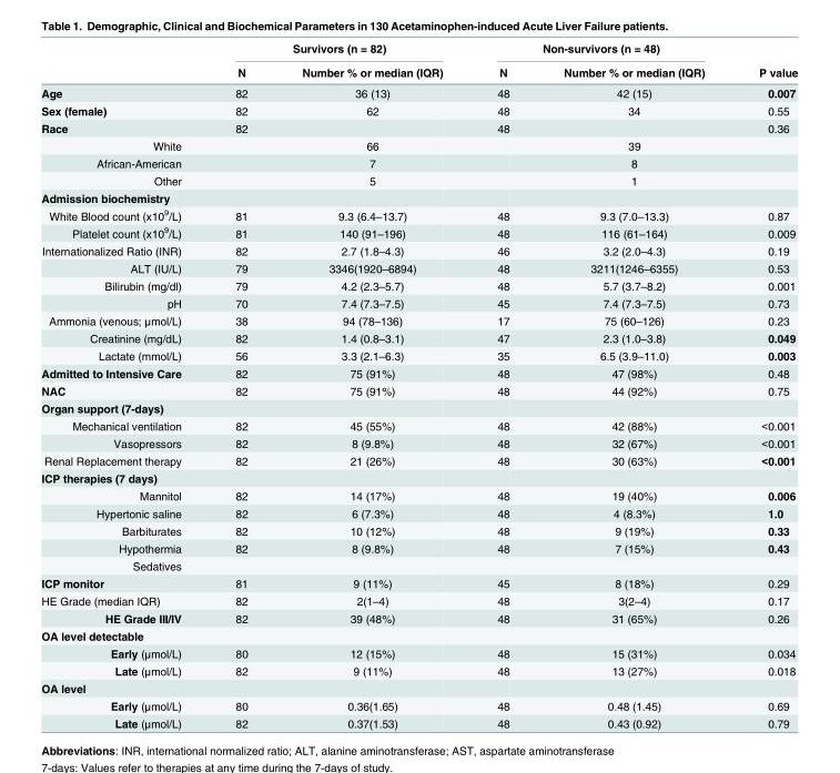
<table><thead><tr><td rowspan="2"></td><td colspan="2">Survivors (n = 82)</td><td colspan="2">Non-survivors (n = 48)</td><td rowspan="2">P value</td></tr><tr><td>N</td><td>Number % or median (IQR)</td><td>N</td><td>Number % or median (IQR)</td></tr></thead><tbody><tr><td>Age</td><td>82</td><td>36 (13)</td><td>48</td><td>42 (15)</td><td>0.007</td></tr><tr><td>Sex (female)</td><td>82</td><td>62</td><td>48</td><td>34</td><td>0.55</td></tr><tr><td>Race</td><td>82</td><td></td><td>48</td><td></td><td>0.36</td></tr><tr><td>White</td><td></td><td>66</td><td></td><td>39</td><td></td></tr><tr><td>African-American</td><td></td><td>7</td><td></td><td>8</td><td></td></tr><tr><td>Other</td><td></td><td>5</td><td></td><td>1</td><td></td></tr><tr><td colspan="6">Admission biochemistry</td></tr><tr><td>White Blood count (x10<sup>9</sup>/L)</td><td>81</td><td>9.3 (6.4–13.7)</td><td>48</td><td>9.3 (7.0–13.3)</td><td>0.87</td></tr><tr><td>Platelet count (x10<sup>9</sup>/L)</td><td>81</td><td>140 (91–196)</td><td>48</td><td>116 (61–164)</td><td>0.009</td></tr><tr><td>Internationalized Ratio (INR)</td><td>82</td><td>2.7 (1.8–4.3)</td><td>46</td><td>3.2 (2.0–4.3)</td><td>0.19</td></tr><tr><td>ALT (IU/L)</td><td>79</td><td>3346(1920–6894)</td><td>48</td><td>3211(1246–6355)</td><td>0.53</td></tr><tr><td>Bilirubin (mg/dl)</td><td>79</td><td>4.2 (2.3–5.7)</td><td>48</td><td>5.7 (3.7–8.2)</td><td>0.001</td></tr><tr><td>pH</td><td>70</td><td>7.4 (7.3–7.5)</td><td>45</td><td>7.4 (7.3–7.5)</td><td>0.73</td></tr><tr><td>Ammonia (venous; μmol/L)</td><td>38</td><td>94 (78–136)</td><td>17</td><td>75 (60–126)</td><td>0.23</td></tr><tr><td>Creatinine (mg/dL)</td><td>82</td><td>1.4 (0.8–3.1)</td><td>47</td><td>2.3 (1.0–3.8)</td><td>0.049</td></tr><tr><td>Lactate (mmol/L)</td><td>56</td><td>3.3 (2.1–6.3)</td><td>35</td><td>6.5 (3.9–11.0)</td><td>0.003</td></tr><tr><td>Admitted to Intensive Care</td><td>82</td><td>75 (91%)</td><td>48</td><td>47 (98%)</td><td>0.48</td></tr><tr><td>NAC</td><td>82</td><td>75 (91%)</td><td>48</td><td>44 (92%)</td><td>0.75</td></tr><tr><td colspan="6">Organ support (7-days)</td></tr><tr><td>Mechanical ventilation</td><td>82</td><td>45 (55%)</td><td>48</td><td>42 (88%)</td><td>&lt;0.001</td></tr><tr><td>Vasopressors</td><td>82</td><td>8 (9.8%)</td><td>48</td><td>32 (67%)</td><td>&lt;0.001</td></tr><tr><td>Renal Replacement therapy</td><td>82</td><td>21 (26%)</td><td>48</td><td>30 (63%)</td><td>&lt;0.001</td></tr><tr><td colspan="6">ICP therapies (7 days)</td></tr><tr><td>Mannitol</td><td>82</td><td>14 (17%)</td><td>48</td><td>19 (40%)</td><td>0.006</td></tr><tr><td>Hypertonic saline</td><td>82</td><td>6 (7.3%)</td><td>48</td><td>4 (8.3%)</td><td>1.0</td></tr><tr><td>Barbiturates</td><td>82</td><td>10 (12%)</td><td>48</td><td>9 (19%)</td><td>0.33</td></tr><tr><td>Hypothermia</td><td>82</td><td>8 (9.8%)</td><td>48</td><td>7 (15%)</td><td>0.43</td></tr><tr><td colspan="6">Sedatives</td></tr><tr><td>ICP monitor</td><td>81</td><td>9 (11%)</td><td>45</td><td>8 (18%)</td><td>0.29</td></tr><tr><td>HE Grade (median IQR)</td><td>82</td><td>2(1–4)</td><td>48</td><td>3(2–4)</td><td>0.17</td></tr><tr><td>HE Grade III/IV</td><td>82</td><td>39 (48%)</td><td>48</td><td>31 (65%)</td><td>0.26</td></tr><tr><td colspan="6">OA level detectable</td></tr><tr><td>Early (μmol/L)</td><td>80</td><td>12 (15%)</td><td>48</td><td>15 (31%)</td><td>0.034</td></tr><tr><td>Late (μmol/L)</td><td>82</td><td>9 (11%)</td><td>48</td><td>13 (27%)</td><td>0.018</td></tr><tr><td colspan="6">OA level</td></tr><tr><td>Early (μmol/L)</td><td>80</td><td>0.36(1.65)</td><td>48</td><td>0.48 (1.45)</td><td>0.69</td></tr><tr><td>Late (μmol/L)</td><td>82</td><td>0.37(1.53)</td><td>48</td><td>0.43 (0.92)</td><td>0.79</td></tr></tbody></table>